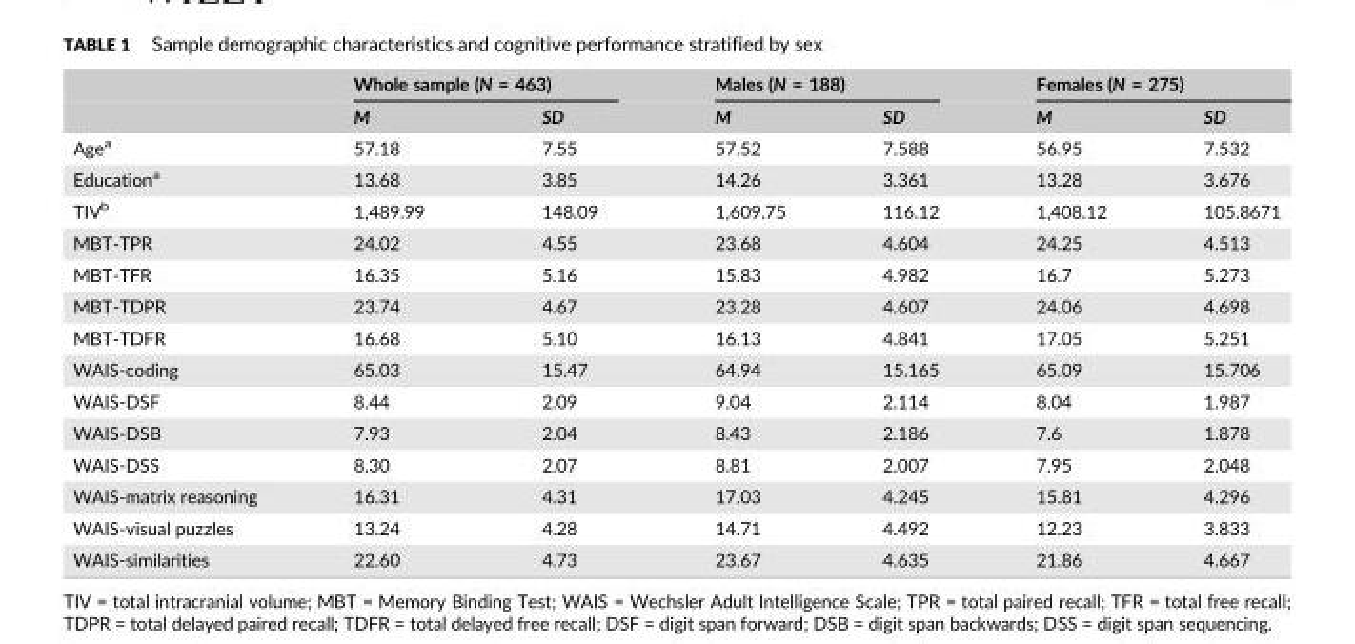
<table><thead><tr><td rowspan="2"></td><td colspan="2">Whole sample (N = 463)</td><td colspan="2">Males (N = 188)</td><td colspan="2">Females (N = 275)</td></tr><tr><td>M</td><td>SD</td><td>M</td><td>SD</td><td>M</td><td>SD</td></tr></thead><tbody><tr><td>Age<sup>a</sup></td><td>57.18</td><td>7.55</td><td>57.52</td><td>7.588</td><td>56.95</td><td>7.532</td></tr><tr><td>Education<sup>a</sup></td><td>13.68</td><td>3.85</td><td>14.26</td><td>3.361</td><td>13.28</td><td>3.676</td></tr><tr><td>TIV<sup>b</sup></td><td>1,489.99</td><td>148.09</td><td>1,609.75</td><td>116.12</td><td>1,408.12</td><td>105.8671</td></tr><tr><td>MBT-TPR</td><td>24.02</td><td>4.55</td><td>23.68</td><td>4.604</td><td>24.25</td><td>4.513</td></tr><tr><td>MBT-TFR</td><td>16.35</td><td>5.16</td><td>15.83</td><td>4.982</td><td>16.7</td><td>5.273</td></tr><tr><td>MBT-TDPR</td><td>23.74</td><td>4.67</td><td>23.28</td><td>4.607</td><td>24.06</td><td>4.698</td></tr><tr><td>MBT-TDFR</td><td>16.68</td><td>5.10</td><td>16.13</td><td>4.841</td><td>17.05</td><td>5.251</td></tr><tr><td>WAIS-coding</td><td>65.03</td><td>15.47</td><td>64.94</td><td>15.165</td><td>65.09</td><td>15.706</td></tr><tr><td>WAIS-DSF</td><td>8.44</td><td>2.09</td><td>9.04</td><td>2.114</td><td>8.04</td><td>1.987</td></tr><tr><td>WAIS-DSB</td><td>7.93</td><td>2.04</td><td>8.43</td><td>2.186</td><td>7.6</td><td>1.878</td></tr><tr><td>WAIS-DSS</td><td>8.30</td><td>2.07</td><td>8.81</td><td>2.007</td><td>7.95</td><td>2.048</td></tr><tr><td>WAIS-matrix reasoning</td><td>16.31</td><td>4.31</td><td>17.03</td><td>4.245</td><td>15.81</td><td>4.296</td></tr><tr><td>WAIS-visual puzzles</td><td>13.24</td><td>4.28</td><td>14.71</td><td>4.492</td><td>12.23</td><td>3.833</td></tr><tr><td>WAIS-similarities</td><td>22.60</td><td>4.73</td><td>23.67</td><td>4.635</td><td>21.86</td><td>4.667</td></tr></tbody></table>